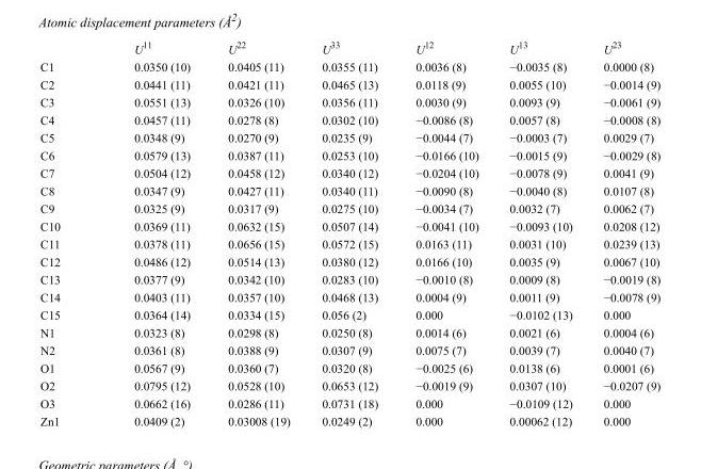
<table><thead><tr><td></td><td>U<sup>11</sup></td><td>U<sup>22</sup></td><td>U<sup>33</sup></td><td>U<sup>12</sup></td><td>U<sup>13</sup></td><td>U<sup>23</sup></td></tr></thead><tbody><tr><td>C1</td><td>0.0350 (10)</td><td>0.0405 (11)</td><td>0.0355 (11)</td><td>0.0036 (8)</td><td>−0.0035 (8)</td><td>0.0000 (8)</td></tr><tr><td>C2</td><td>0.0441 (11)</td><td>0.0421 (11)</td><td>0.0465 (13)</td><td>0.0118 (9)</td><td>0.0055 (10)</td><td>−0.0014 (9)</td></tr><tr><td>C3</td><td>0.0551 (13)</td><td>0.0326 (10)</td><td>0.0356 (11)</td><td>0.0030 (9)</td><td>0.0093 (9)</td><td>−0.0061 (9)</td></tr><tr><td>C4</td><td>0.0457 (11)</td><td>0.0278 (8)</td><td>0.0302 (10)</td><td>−0.0086 (8)</td><td>0.0057 (8)</td><td>−0.0008 (8)</td></tr><tr><td>C5</td><td>0.0348 (9)</td><td>0.0270 (9)</td><td>0.0235 (9)</td><td>−0.0044 (7)</td><td>−0.0003 (7)</td><td>0.0029 (7)</td></tr><tr><td>C6</td><td>0.0579 (13)</td><td>0.0387 (11)</td><td>0.0253 (10)</td><td>−0.0166 (10)</td><td>−0.0015 (9)</td><td>−0.0029 (8)</td></tr><tr><td>C7</td><td>0.0504 (12)</td><td>0.0458 (12)</td><td>0.0340 (12)</td><td>−0.0204 (10)</td><td>−0.0078 (9)</td><td>0.0041 (9)</td></tr><tr><td>C8</td><td>0.0347 (9)</td><td>0.0427 (11)</td><td>0.0340 (11)</td><td>−0.0090 (8)</td><td>−0.0040 (8)</td><td>0.0107 (8)</td></tr><tr><td>C9</td><td>0.0325 (9)</td><td>0.0317 (9)</td><td>0.0275 (10)</td><td>−0.0034 (7)</td><td>0.0032 (7)</td><td>0.0062 (7)</td></tr><tr><td>C10</td><td>0.0369 (11)</td><td>0.0632 (15)</td><td>0.0507 (14)</td><td>−0.0041 (10)</td><td>−0.0093 (10)</td><td>0.0208 (12)</td></tr><tr><td>C11</td><td>0.0378 (11)</td><td>0.0656 (15)</td><td>0.0572 (15)</td><td>0.0163 (11)</td><td>0.0031 (10)</td><td>0.0239 (13)</td></tr><tr><td>C12</td><td>0.0486 (12)</td><td>0.0514 (13)</td><td>0.0380 (12)</td><td>0.0166 (10)</td><td>0.0035 (9)</td><td>0.0067 (10)</td></tr><tr><td>C13</td><td>0.0377 (9)</td><td>0.0342 (10)</td><td>0.0283 (10)</td><td>−0.0010 (8)</td><td>0.0009 (8)</td><td>−0.0019 (8)</td></tr><tr><td>C14</td><td>0.0403 (11)</td><td>0.0357 (10)</td><td>0.0468 (13)</td><td>0.0004 (9)</td><td>0.0011 (9)</td><td>−0.0078 (9)</td></tr><tr><td>C15</td><td>0.0364 (14)</td><td>0.0334 (15)</td><td>0.056 (2)</td><td>0.000</td><td>−0.0102 (13)</td><td>0.000</td></tr><tr><td>N1</td><td>0.0323 (8)</td><td>0.0298 (8)</td><td>0.0250 (8)</td><td>0.0014 (6)</td><td>0.0021 (6)</td><td>0.0004 (6)</td></tr><tr><td>N2</td><td>0.0361 (8)</td><td>0.0388 (9)</td><td>0.0307 (9)</td><td>0.0075 (7)</td><td>0.0039 (7)</td><td>0.0040 (7)</td></tr><tr><td>O1</td><td>0.0567 (9)</td><td>0.0360 (7)</td><td>0.0320 (8)</td><td>−0.0025 (6)</td><td>0.0138 (6)</td><td>0.0001 (6)</td></tr><tr><td>O2</td><td>0.0795 (12)</td><td>0.0528 (10)</td><td>0.0653 (12)</td><td>−0.0019 (9)</td><td>0.0307 (10)</td><td>−0.0207 (9)</td></tr><tr><td>O3</td><td>0.0662 (16)</td><td>0.0286 (11)</td><td>0.0731 (18)</td><td>0.000</td><td>−0.0109 (12)</td><td>0.000</td></tr><tr><td>Zn1</td><td>0.0409 (2)</td><td>0.03008 (19)</td><td>0.0249 (2)</td><td>0.000</td><td>0.00062 (12)</td><td>0.000</td></tr></tbody></table>